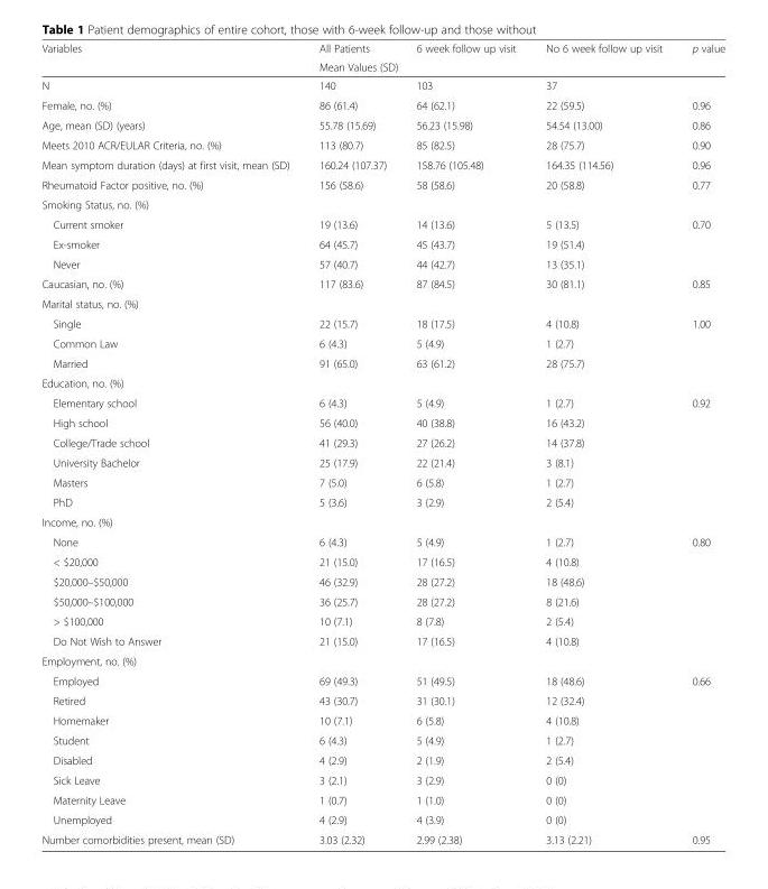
<table><thead><tr><td rowspan="2">Variables</td><td>All Patients</td><td>6 week follow up visit</td><td>No 6 week follow up visit</td><td>p value</td></tr><tr><td colspan="4">Mean Values (SD)</td></tr></thead><tbody><tr><td>N</td><td>140</td><td>103</td><td>37</td><td></td></tr><tr><td>Female, no. (%)</td><td>86 (61.4)</td><td>64 (62.1)</td><td>22 (59.5)</td><td>0.96</td></tr><tr><td>Age, mean (SD) (years)</td><td>55.78 (15.69)</td><td>56.23 (15.98)</td><td>54.54 (13.00)</td><td>0.86</td></tr><tr><td>Meets 2010 ACR/EULAR Criteria, no. (%)</td><td>113 (80.7)</td><td>85 (82.5)</td><td>28 (75.7)</td><td>0.90</td></tr><tr><td>Mean symptom duration (days) at first visit, mean (SD)</td><td>160.24 (107.37)</td><td>158.76 (105.48)</td><td>164.35 (114.56)</td><td>0.96</td></tr><tr><td>Rheumatoid Factor positive, no. (%)</td><td>156 (58.6)</td><td>58 (58.6)</td><td>20 (58.8)</td><td>0.77</td></tr><tr><td colspan="5">Smoking Status, no. (%)</td></tr><tr><td>Current smoker</td><td>19 (13.6)</td><td>14 (13.6)</td><td>5 (13.5)</td><td rowspan="3">0.70</td></tr><tr><td>Ex-smoker</td><td>64 (45.7)</td><td>45 (43.7)</td><td>19 (51.4)</td></tr><tr><td>Never</td><td>57 (40.7)</td><td>44 (42.7)</td><td>13 (35.1)</td></tr><tr><td>Caucasian, no. (%)</td><td>117 (83.6)</td><td>87 (84.5)</td><td>30 (81.1)</td><td>0.85</td></tr><tr><td colspan="5">Marital status, no. (%)</td></tr><tr><td>Single</td><td>22 (15.7)</td><td>18 (17.5)</td><td>4 (10.8)</td><td rowspan="3">1.00</td></tr><tr><td>Common Law</td><td>6 (4.3)</td><td>5 (4.9)</td><td>1 (2.7)</td></tr><tr><td>Married</td><td>91 (65.0)</td><td>63 (61.2)</td><td>28 (75.7)</td></tr><tr><td colspan="5">Education, no. (%)</td></tr><tr><td>Elementary school</td><td>6 (4.3)</td><td>5 (4.9)</td><td>1 (2.7)</td><td rowspan="6">0.92</td></tr><tr><td>High school</td><td>56 (40.0)</td><td>40 (38.8)</td><td>16 (43.2)</td></tr><tr><td>College/Trade school</td><td>41 (29.3)</td><td>27 (26.2)</td><td>14 (37.8)</td></tr><tr><td>University Bachelor</td><td>25 (17.9)</td><td>22 (21.4)</td><td>3 (8.1)</td></tr><tr><td>Masters</td><td>7 (5.0)</td><td>6 (5.8)</td><td>1 (2.7)</td></tr><tr><td>PhD</td><td>5 (3.6)</td><td>3 (2.9)</td><td>2 (5.4)</td></tr><tr><td colspan="5">Income, no. (%)</td></tr><tr><td>None</td><td>6 (4.3)</td><td>5 (4.9)</td><td>1 (2.7)</td><td rowspan="6">0.80</td></tr><tr><td>&lt; $20,000</td><td>21 (15.0)</td><td>17 (16.5)</td><td>4 (10.8)</td></tr><tr><td>$20,000–$50,000</td><td>46 (32.9)</td><td>28 (27.2)</td><td>18 (48.6)</td></tr><tr><td>$50,000–$100,000</td><td>36 (25.7)</td><td>28 (27.2)</td><td>8 (21.6)</td></tr><tr><td>&gt; $100,000</td><td>10 (7.1)</td><td>8 (7.8)</td><td>2 (5.4)</td></tr><tr><td>Do Not Wish to Answer</td><td>21 (15.0)</td><td>17 (16.5)</td><td>4 (10.8)</td></tr><tr><td colspan="5">Employment, no. (%)</td></tr><tr><td>Employed</td><td>69 (49.3)</td><td>51 (49.5)</td><td>18 (48.6)</td><td rowspan="4">0.66</td></tr><tr><td>Retired</td><td>43 (30.7)</td><td>31 (30.1)</td><td>12 (32.4)</td></tr><tr><td>Homemaker</td><td>10 (7.1)</td><td>6 (5.8)</td><td>4 (10.8)</td></tr><tr><td>Student</td><td>6 (4.3)</td><td>5 (4.9)</td><td>1 (2.7)</td></tr><tr><td>Disabled</td><td>4 (2.9)</td><td>2 (1.9)</td><td>2 (5.4)</td><td rowspan="4"></td></tr><tr><td>Sick Leave</td><td>3 (2.1)</td><td>3 (2.9)</td><td>0 (0)</td></tr><tr><td>Maternity Leave</td><td>1 (0.7)</td><td>1 (1.0)</td><td>0 (0)</td></tr><tr><td>Unemployed</td><td>4 (2.9)</td><td>4 (3.9)</td><td>0 (0)</td></tr><tr><td>Number comorbidities present, mean (SD)</td><td>3.03 (2.32)</td><td>2.99 (2.38)</td><td>3.13 (2.21)</td><td>0.95</td></tr></tbody></table>